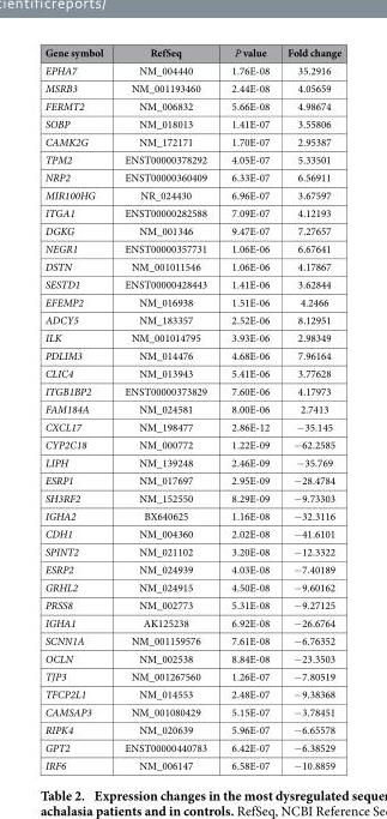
<table><thead><tr><td>Gene symbol</td><td>RefSeq</td><td>P value</td><td>Fold change</td></tr></thead><tbody><tr><td>EPHA7</td><td>NM_004440</td><td>1.76E-08</td><td>35.2916</td></tr><tr><td>MSRB3</td><td>NM_001193460</td><td>2.44E-08</td><td>4.05659</td></tr><tr><td>FERMT2</td><td>NM_006832</td><td>5.66E-08</td><td>4.98674</td></tr><tr><td>SOBP</td><td>NM_018013</td><td>1.41E-07</td><td>3.55806</td></tr><tr><td>CAMK2G</td><td>NM_172171</td><td>1.70E-07</td><td>2.95387</td></tr><tr><td>TPM2</td><td>ENST00000378292</td><td>4.05E-07</td><td>5.33501</td></tr><tr><td>NRP2</td><td>ENST00000360409</td><td>6.33E-07</td><td>6.56911</td></tr><tr><td>MIR100HG</td><td>NR_024430</td><td>6.96E-07</td><td>3.67597</td></tr><tr><td>ITGA1</td><td>ENST00000282588</td><td>7.09E-07</td><td>4.12193</td></tr><tr><td>DGKG</td><td>NM_001346</td><td>9.47E-07</td><td>7.27657</td></tr><tr><td>NEGR1</td><td>ENST00000357731</td><td>1.06E-06</td><td>6.67641</td></tr><tr><td>DSTN</td><td>NM_001011546</td><td>1.06E-06</td><td>4.17867</td></tr><tr><td>SESTD1</td><td>ENST00000428443</td><td>1.41E-06</td><td>3.62844</td></tr><tr><td>EFEMP2</td><td>NM_016938</td><td>1.51E-06</td><td>4.2466</td></tr><tr><td>ADCY5</td><td>NM_183357</td><td>2.52E-06</td><td>8.12951</td></tr><tr><td>ILK</td><td>NM_001014795</td><td>3.93E-06</td><td>2.98349</td></tr><tr><td>PDLIM3</td><td>NM_014476</td><td>4.68E-06</td><td>7.96164</td></tr><tr><td>CLIC4</td><td>NM_013943</td><td>5.41E-06</td><td>3.77628</td></tr><tr><td>ITGB1BP2</td><td>ENST00000373829</td><td>7.60E-06</td><td>4.17973</td></tr><tr><td>FAM184A</td><td>NM_024581</td><td>8.00E-06</td><td>2.7413</td></tr><tr><td>CXCL17</td><td>NM_198477</td><td>2.86E-12</td><td>− 35.145</td></tr><tr><td>CYP2C18</td><td>NM_000772</td><td>1.22E-09</td><td>− 62.2585</td></tr><tr><td>LIPH</td><td>NM_139248</td><td>2.46E-09</td><td>− 35.769</td></tr><tr><td>ESRP1</td><td>NM_017697</td><td>2.95E-09</td><td>− 28.4784</td></tr><tr><td>SH3RF2</td><td>NM_152550</td><td>8.29E-09</td><td>− 9.73303</td></tr><tr><td>IGHA2</td><td>BX640625</td><td>1.16E-08</td><td>− 32.3116</td></tr><tr><td>CDH1</td><td>NM_004360</td><td>2.02E-08</td><td>− 41.6101</td></tr><tr><td>SPINT2</td><td>NM_021102</td><td>3.20E-08</td><td>− 12.3322</td></tr><tr><td>ESRP2</td><td>NM_024939</td><td>4.03E-08</td><td>− 7.40189</td></tr><tr><td>GRHL2</td><td>NM_024915</td><td>4.50E-08</td><td>− 9.60162</td></tr><tr><td>PRSS8</td><td>NM_002773</td><td>5.31E-08</td><td>− 9.27125</td></tr><tr><td>IGHA1</td><td>AK125238</td><td>6.92E-08</td><td>− 26.6764</td></tr><tr><td>SCNN1A</td><td>NM_001159576</td><td>7.61E-08</td><td>− 6.76352</td></tr><tr><td>OCLN</td><td>NM_002538</td><td>8.84E-08</td><td>− 23.3503</td></tr><tr><td>TJP3</td><td>NM_001267560</td><td>1.26E-07</td><td>− 7.80519</td></tr><tr><td>TFCP2L1</td><td>NM_014553</td><td>2.48E-07</td><td>− 9.38368</td></tr><tr><td>CAMSAP3</td><td>NM_001080429</td><td>5.15E-07</td><td>− 3.78451</td></tr><tr><td>RIPK4</td><td>NM_020639</td><td>5.96E-07</td><td>− 6.65578</td></tr><tr><td>GPT2</td><td>ENST00000440783</td><td>6.42E-07</td><td>− 6.38529</td></tr><tr><td>IRF6</td><td>NM_006147</td><td>6.58E-07</td><td>− 10.8859</td></tr></tbody></table>